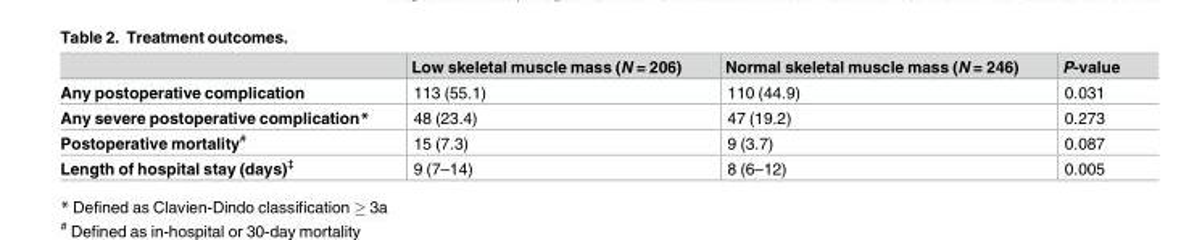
<table><thead><tr><td></td><td>Low skeletal muscle mass (N = 206)</td><td>Normal skeletal muscle mass (N = 246)</td><td>P-value</td></tr></thead><tbody><tr><td>Any postoperative complication</td><td>113 (55.1)</td><td>110 (44.9)</td><td>0.031</td></tr><tr><td>Any severe postoperative complication*</td><td>48 (23.4)</td><td>47 (19.2)</td><td>0.273</td></tr><tr><td>Postoperative mortality<sup>#</sup></td><td>15 (7.3)</td><td>9 (3.7)</td><td>0.087</td></tr><tr><td>Length of hospital stay (days)<sup>‡</sup></td><td>9 (7–14)</td><td>8 (6–12)</td><td>0.005</td></tr></tbody></table>